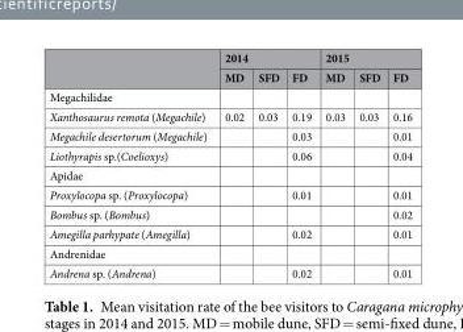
<table><thead><tr><td rowspan="2"></td><td colspan="3">2014</td><td colspan="3">2015</td></tr><tr><td>MD</td><td>SFD</td><td>FD</td><td>MD</td><td>SFD</td><td>FD</td></tr></thead><tbody><tr><td colspan="7">Megachilidae</td></tr><tr><td>Xanthosaurus remota (Megachile)</td><td>0.02</td><td>0.03</td><td>0.19</td><td>0.03</td><td>0.03</td><td>0.16</td></tr><tr><td>Megachile desertorum (Megachile)</td><td></td><td></td><td>0.03</td><td></td><td></td><td>0.01</td></tr><tr><td>Liothyrapis sp.(Coelioxys)</td><td></td><td></td><td>0.06</td><td></td><td></td><td>0.04</td></tr><tr><td colspan="7">Apidae</td></tr><tr><td>Proxylocopa sp. (Proxylocopa)</td><td></td><td></td><td>0.01</td><td></td><td></td><td>0.01</td></tr><tr><td>Bombus sp. (Bombus)</td><td></td><td></td><td></td><td></td><td></td><td>0.02</td></tr><tr><td>Amegilla parhypate (Amegilla)</td><td></td><td></td><td>0.02</td><td></td><td></td><td>0.01</td></tr><tr><td colspan="7">Andrenidae</td></tr><tr><td>Andrena sp. (Andrena)</td><td></td><td></td><td>0.02</td><td></td><td></td><td>0.01</td></tr></tbody></table>